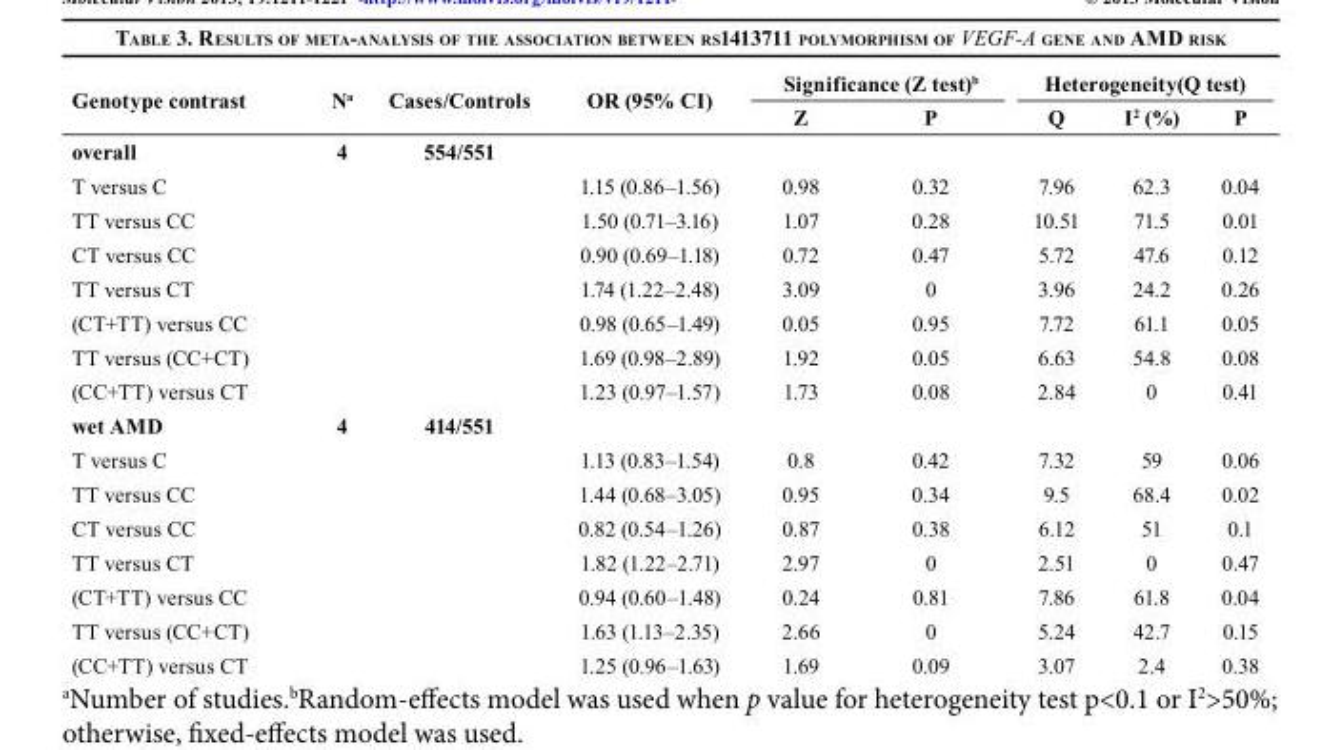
<table><thead><tr><td rowspan="2">Genotype contrast</td><td rowspan="2">N<sup>a</sup></td><td rowspan="2">Cases/Controls</td><td rowspan="2">OR (95% CI)</td><td colspan="2">Significance (Z test)<sup>b</sup></td><td colspan="3">Heterogeneity(Q test)</td></tr><tr><td>Z</td><td>P</td><td>Q</td><td>I<sup>2</sup> (%)</td><td>P</td></tr></thead><tbody><tr><td>overall</td><td>4</td><td>554/551</td><td></td><td></td><td></td><td></td><td></td><td></td></tr><tr><td>T versus C</td><td></td><td></td><td>1.15 (0.86–1.56)</td><td>0.98</td><td>0.32</td><td>7.96</td><td>62.3</td><td>0.04</td></tr><tr><td>TT versus CC</td><td></td><td></td><td>1.50 (0.71–3.16)</td><td>1.07</td><td>0.28</td><td>10.51</td><td>71.5</td><td>0.01</td></tr><tr><td>CT versus CC</td><td></td><td></td><td>0.90 (0.69–1.18)</td><td>0.72</td><td>0.47</td><td>5.72</td><td>47.6</td><td>0.12</td></tr><tr><td>TT versus CT</td><td></td><td></td><td>1.74 (1.22–2.48)</td><td>3.09</td><td>0</td><td>3.96</td><td>24.2</td><td>0.26</td></tr><tr><td>(CT+TT) versus CC</td><td></td><td></td><td>0.98 (0.65–1.49)</td><td>0.05</td><td>0.95</td><td>7.72</td><td>61.1</td><td>0.05</td></tr><tr><td>TT versus (CC+CT)</td><td></td><td></td><td>1.69 (0.98–2.89)</td><td>1.92</td><td>0.05</td><td>6.63</td><td>54.8</td><td>0.08</td></tr><tr><td>(CC+TT) versus CT</td><td></td><td></td><td>1.23 (0.97–1.57)</td><td>1.73</td><td>0.08</td><td>2.84</td><td>0</td><td>0.41</td></tr><tr><td>wet AMD</td><td>4</td><td>414/551</td><td></td><td></td><td></td><td></td><td></td><td></td></tr><tr><td>T versus C</td><td></td><td></td><td>1.13 (0.83–1.54)</td><td>0.8</td><td>0.42</td><td>7.32</td><td>59</td><td>0.06</td></tr><tr><td>TT versus CC</td><td></td><td></td><td>1.44 (0.68–3.05)</td><td>0.95</td><td>0.34</td><td>9.5</td><td>68.4</td><td>0.02</td></tr><tr><td>CT versus CC</td><td></td><td></td><td>0.82 (0.54–1.26)</td><td>0.87</td><td>0.38</td><td>6.12</td><td>51</td><td>0.1</td></tr><tr><td>TT versus CT</td><td></td><td></td><td>1.82 (1.22–2.71)</td><td>2.97</td><td>0</td><td>2.51</td><td>0</td><td>0.47</td></tr><tr><td>(CT+TT) versus CC</td><td></td><td></td><td>0.94 (0.60–1.48)</td><td>0.24</td><td>0.81</td><td>7.86</td><td>61.8</td><td>0.04</td></tr><tr><td>TT versus (CC+CT)</td><td></td><td></td><td>1.63 (1.13–2.35)</td><td>2.66</td><td>0</td><td>5.24</td><td>42.7</td><td>0.15</td></tr><tr><td>(CC+TT) versus CT</td><td></td><td></td><td>1.25 (0.96–1.63)</td><td>1.69</td><td>0.09</td><td>3.07</td><td>2.4</td><td>0.38</td></tr></tbody></table>